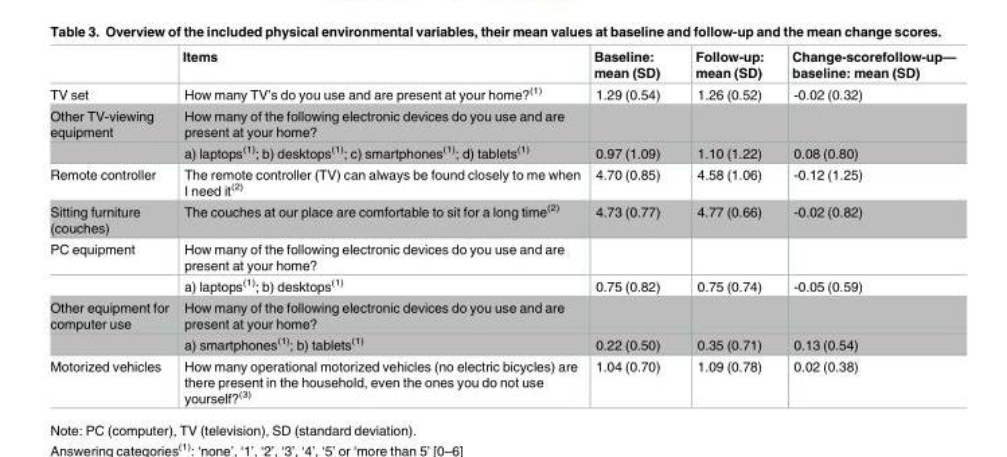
<table><thead><tr><td></td><td>Items</td><td>Baseline: mean (SD)</td><td>Follow-up: mean (SD)</td><td>Change-scorefollow-up— baseline: mean (SD)</td></tr></thead><tbody><tr><td>TV set</td><td>How many TV’s do you use and are present at your home?<sup>(1)</sup></td><td>1.29 (0.54)</td><td>1.26 (0.52)</td><td>-0.02 (0.32)</td></tr><tr><td rowspan="2">Other TV-viewing equipment</td><td>How many of the following electronic devices do you use and are present at your home?</td><td></td><td></td><td></td></tr><tr><td>a) laptops<sup>(1)</sup>; b) desktops<sup>(1)</sup>; c) smartphones<sup>(1)</sup>; d) tablets<sup>(1)</sup></td><td>0.97 (1.09)</td><td>1.10 (1.22)</td><td>0.08 (0.80)</td></tr><tr><td>Remote controller</td><td>The remote controller (TV) can always be found closely to me when I need it<sup>(2)</sup></td><td>4.70 (0.85)</td><td>4.58 (1.06)</td><td>-0.12 (1.25)</td></tr><tr><td>Sitting furniture (couches)</td><td>The couches at our place are comfortable to sit for a long time<sup>(2)</sup></td><td>4.73 (0.77)</td><td>4.77 (0.66)</td><td>-0.02 (0.82)</td></tr><tr><td rowspan="2">PC equipment</td><td>How many of the following electronic devices do you use and are present at your home?</td><td></td><td></td><td></td></tr><tr><td>a) laptops<sup>(1)</sup>; b) desktops<sup>(1)</sup></td><td>0.75 (0.82)</td><td>0.75 (0.74)</td><td>-0.05 (0.59)</td></tr><tr><td rowspan="2">Other equipment for computer use</td><td>How many of the following electronic devices do you use and are present at your home?</td><td></td><td></td><td></td></tr><tr><td>a) smartphones<sup>(1)</sup>; b) tablets<sup>(1)</sup></td><td>0.22 (0.50)</td><td>0.35 (0.71)</td><td>0.13 (0.54)</td></tr><tr><td>Motorized vehicles</td><td>How many operational motorized vehicles (no electric bicycles) are there present in the household, even the ones you do not use yourself?<sup>(3)</sup></td><td>1.04 (0.70)</td><td>1.09 (0.78)</td><td>0.02 (0.38)</td></tr></tbody></table>